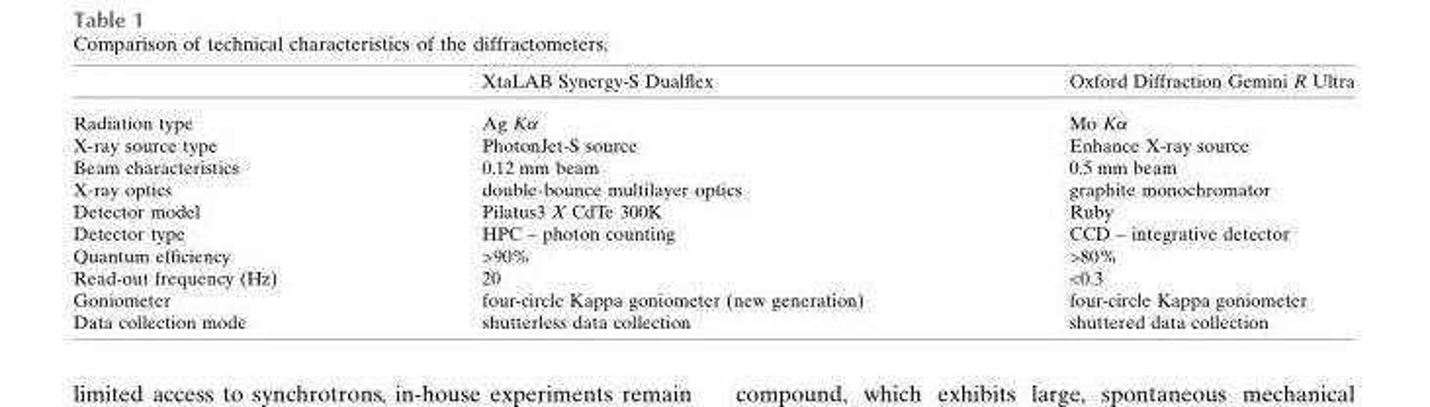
<table><thead><tr><td></td><td>XtaLAB Synergy-S Dualflex</td><td>Oxford Diffraction Gemini R Ultra</td></tr></thead><tbody><tr><td>Radiation type</td><td>Ag Kα</td><td>Mo Kα</td></tr><tr><td>X-ray source type</td><td>PhotonJet-S source</td><td>Enhance X-ray source</td></tr><tr><td>Beam characteristics</td><td>0.12 mm beam</td><td>0.5 mm beam</td></tr><tr><td>X-ray optics</td><td>double-bounce multilayer optics</td><td>graphite monochromator</td></tr><tr><td>Detector model</td><td>Pilatus3 X CdTe 300K</td><td>Ruby</td></tr><tr><td>Detector type</td><td>HPC – photon counting</td><td>CCD – integrative detector</td></tr><tr><td>Quantum efficiency</td><td>&gt;90%</td><td>&gt;80%</td></tr><tr><td>Read-out frequency (Hz)</td><td>20</td><td>&lt;0.3</td></tr><tr><td>Goniometer</td><td>four-circle Kappa goniometer (new generation)</td><td>four-circle Kappa goniometer</td></tr><tr><td>Data collection mode</td><td>shutterless data collection</td><td>shuttered data collection</td></tr></tbody></table>